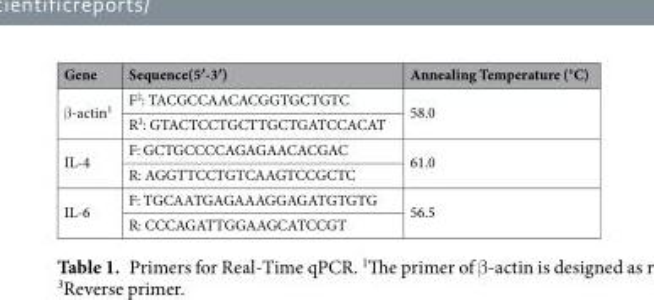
<table><thead><tr><td>Gene</td><td>Sequence(5′-3′)</td><td>Annealing Temperature (°C)</td></tr></thead><tbody><tr><td rowspan="2">β-actin<sup>1</sup></td><td>F<sup>2</sup>: TACGCCAACACGGTGCTGTC</td><td rowspan="2">58.0</td></tr><tr><td>R<sup>3</sup>: GTACTCCTGCTTGCTGATCCACAT</td></tr><tr><td rowspan="2">IL-4</td><td>F: GCTGCCCCAGAGAACACGAC</td><td rowspan="2">61.0</td></tr><tr><td>R: AGGTTCCTGTCAAGTCCGCTC</td></tr><tr><td rowspan="2">IL-6</td><td>F: TGCAATGAGAAAGGAGATGTGTG</td><td rowspan="2">56.5</td></tr><tr><td>R: CCCAGATTGGAAGCATCCGT</td></tr></tbody></table>